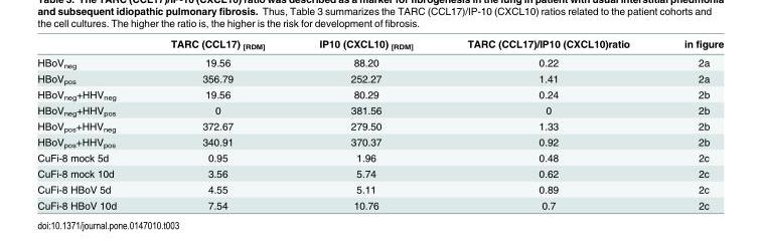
<table><thead><tr><td></td><td>TARC (CCL17) <sub>[RDM]</sub></td><td>IP10 (CXCL10) <sub>[RDM]</sub></td><td>TARC (CCL17)/IP10 (CXCL10)ratio</td><td>in figure</td></tr></thead><tbody><tr><td>HBoV<sub>neg</sub></td><td>19.56</td><td>88.20</td><td>0.22</td><td>2a</td></tr><tr><td>HBoV<sub>pos</sub></td><td>356.79</td><td>252.27</td><td>1.41</td><td>2a</td></tr><tr><td>HBoV<sub>neg</sub>+HHV<sub>neg</sub></td><td>19.56</td><td>80.29</td><td>0.24</td><td>2b</td></tr><tr><td>HBoV<sub>neg</sub>+HHV<sub>pos</sub></td><td>0</td><td>381.56</td><td>0</td><td>2b</td></tr><tr><td>HBoV<sub>pos</sub>+HHV<sub>neg</sub></td><td>372.67</td><td>279.50</td><td>1.33</td><td>2b</td></tr><tr><td>HBoV<sub>pos</sub>+HHV<sub>pos</sub></td><td>340.91</td><td>370.37</td><td>0.92</td><td>2b</td></tr><tr><td>CuFi-8 mock 5d</td><td>0.95</td><td>1.96</td><td>0.48</td><td>2c</td></tr><tr><td>CuFi-8 mock 10d</td><td>3.56</td><td>5.74</td><td>0.62</td><td>2c</td></tr><tr><td>CuFi-8 HBoV 5d</td><td>4.55</td><td>5.11</td><td>0.89</td><td>2c</td></tr><tr><td>CuFi-8 HBoV 10d</td><td>7.54</td><td>10.76</td><td>0.7</td><td>2c</td></tr></tbody></table>